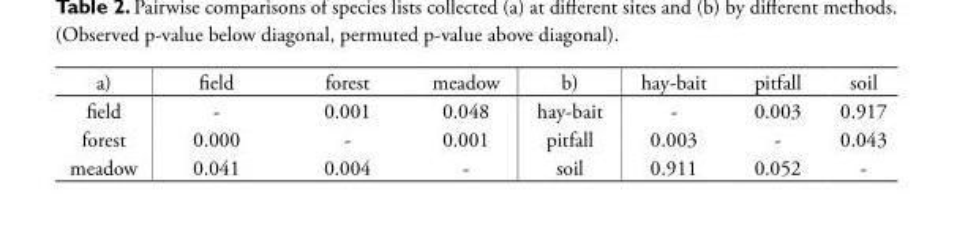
<table><tbody><tr><td>a)</td><td>field</td><td>forest</td><td>meadow</td><td>b)</td><td>hay-bait</td><td>pitfall</td><td>soil</td></tr><tr><td>field</td><td>-</td><td>0.001</td><td>0.048</td><td>hay-bait</td><td>-</td><td>0.003</td><td>0.917</td></tr><tr><td>forest</td><td>0.000</td><td>-</td><td>0.001</td><td>pitfall</td><td>0.003</td><td>-</td><td>0.043</td></tr><tr><td>meadow</td><td>0.041</td><td>0.004</td><td>-</td><td>soil</td><td>0.911</td><td>0.052</td><td>-</td></tr></tbody></table>